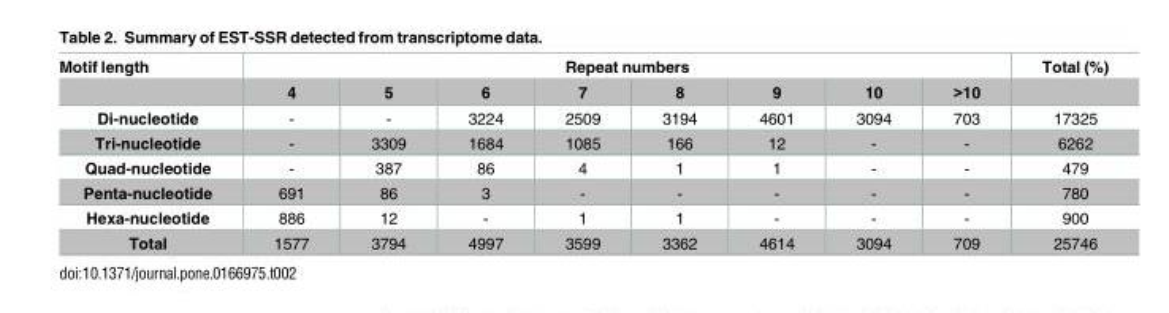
<table><thead><tr><td rowspan="2">Motif length</td><td colspan="8">Repeat numbers</td><td rowspan="2">Total (%)</td></tr><tr><td>4</td><td>5</td><td>6</td><td>7</td><td>8</td><td>9</td><td>10</td><td>&gt;10</td></tr></thead><tbody><tr><td>Di-nucleotide</td><td>-</td><td>-</td><td>3224</td><td>2509</td><td>3194</td><td>4601</td><td>3094</td><td>703</td><td>17325</td></tr><tr><td>Tri-nucleotide</td><td>-</td><td>3309</td><td>1684</td><td>1085</td><td>166</td><td>12</td><td>-</td><td>-</td><td>6262</td></tr><tr><td>Quad-nucleotide</td><td>-</td><td>387</td><td>86</td><td>4</td><td>1</td><td>1</td><td>-</td><td>-</td><td>479</td></tr><tr><td>Penta-nucleotide</td><td>691</td><td>86</td><td>3</td><td>-</td><td>-</td><td>-</td><td>-</td><td>-</td><td>780</td></tr><tr><td>Hexa-nucleotide</td><td>886</td><td>12</td><td>-</td><td>1</td><td>1</td><td>-</td><td>-</td><td>-</td><td>900</td></tr><tr><td>Total</td><td>1577</td><td>3794</td><td>4997</td><td>3599</td><td>3362</td><td>4614</td><td>3094</td><td>709</td><td>25746</td></tr></tbody></table>